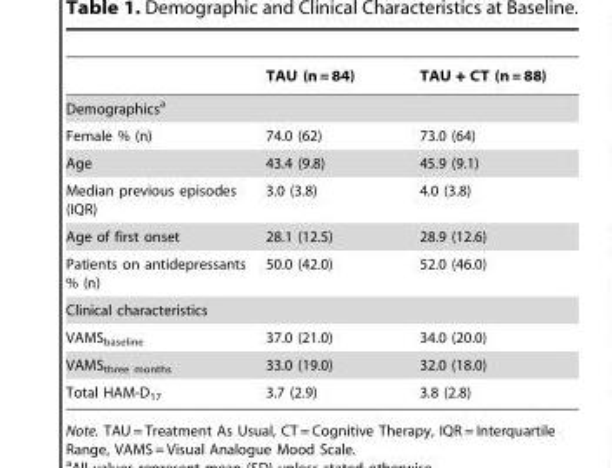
<table><thead><tr><td></td><td>TAU (n = 84)</td><td>TAU + CT (n = 88)</td></tr></thead><tbody><tr><td colspan="3">Demographics<sup>a</sup></td></tr><tr><td>Female % (n)</td><td>74.0 (62)</td><td>73.0 (64)</td></tr><tr><td>Age</td><td>43.4 (9.8)</td><td>45.9 (9.1)</td></tr><tr><td>Median previous episodes (IQR)</td><td>3.0 (3.8)</td><td>4.0 (3.8)</td></tr><tr><td>Age of first onset</td><td>28.1 (12.5)</td><td>28.9 (12.6)</td></tr><tr><td>Patients on antidepressants % (n)</td><td>50.0 (42.0)</td><td>52.0 (46.0)</td></tr><tr><td colspan="3">Clinical characteristics</td></tr><tr><td>VAMS<sub>baseline</sub></td><td>37.0 (21.0)</td><td>34.0 (20.0)</td></tr><tr><td>VAMS<sub>three months</sub></td><td>33.0 (19.0)</td><td>32.0 (18.0)</td></tr><tr><td>Total HAM-D<sub>17</sub></td><td>3.7 (2.9)</td><td>3.8 (2.8)</td></tr></tbody></table>